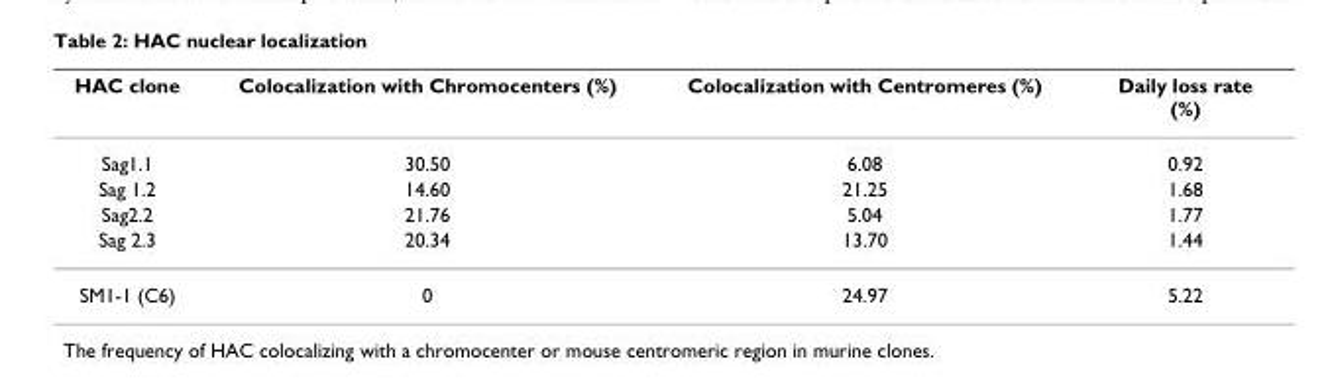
<table><thead><tr><td>HAC clone</td><td>Colocalization with Chromocenters (%)</td><td>Colocalization with Centromeres (%)</td><td>Daily loss rate (%)</td></tr></thead><tbody><tr><td>Sag1.1</td><td>30.50</td><td>6.08</td><td>0.92</td></tr><tr><td>Sag 1.2</td><td>14.60</td><td>21.25</td><td>1.68</td></tr><tr><td>Sag2.2</td><td>21.76</td><td>5.04</td><td>1.77</td></tr><tr><td>Sag 2.3</td><td>20.34</td><td>13.70</td><td>1.44</td></tr><tr><td>SM1-1 (C6)</td><td>0</td><td>24.97</td><td>5.22</td></tr></tbody></table>